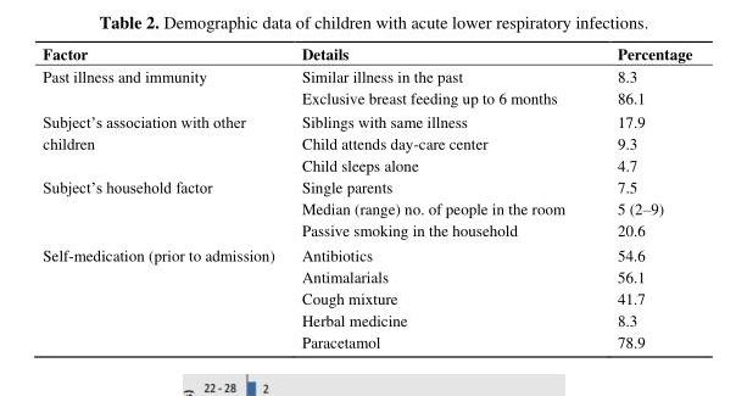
<table><thead><tr><td>Factor</td><td>Details</td><td>Percentage</td></tr></thead><tbody><tr><td rowspan="2">Past illness and immunity</td><td>Similar illness in the past</td><td>8.3</td></tr><tr><td>Exclusive breast feeding up to 6 months</td><td>86.1</td></tr><tr><td rowspan="3">Subject’s association with other children</td><td>Siblings with same illness</td><td>17.9</td></tr><tr><td>Child attends day-care center</td><td>9.3</td></tr><tr><td>Child sleeps alone</td><td>4.7</td></tr><tr><td rowspan="3">Subject’s household factor</td><td>Single parents</td><td>7.5</td></tr><tr><td>Median (range) no. of people in the room</td><td>5 (2–9)</td></tr><tr><td>Passive smoking in the household</td><td>20.6</td></tr><tr><td rowspan="5">Self-medication (prior to admission)</td><td>Antibiotics</td><td>54.6</td></tr><tr><td>Antimalarials</td><td>56.1</td></tr><tr><td>Cough mixture</td><td>41.7</td></tr><tr><td>Herbal medicine</td><td>8.3</td></tr><tr><td>Paracetamol</td><td>78.9</td></tr></tbody></table>